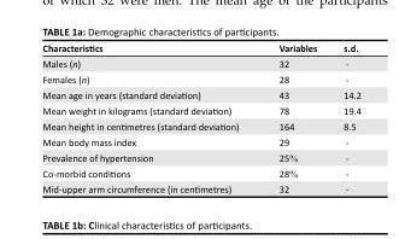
<table><thead><tr><td>Characteristics</td><td>Variables</td><td>s.d.</td></tr></thead><tbody><tr><td>Males (n)</td><td>32</td><td>-</td></tr><tr><td>Females (n)</td><td>28</td><td>-</td></tr><tr><td>Mean age in years (standard deviation)</td><td>43</td><td>14.2</td></tr><tr><td>Mean weight in kilograms (standard deviation)</td><td>78</td><td>19.4</td></tr><tr><td>Mean height in centimetres (standard deviation)</td><td>164</td><td>8.5</td></tr><tr><td>Mean body mass index</td><td>29</td><td>-</td></tr><tr><td>Prevalence of hypertension</td><td>25%</td><td>-</td></tr><tr><td>Co-morbid conditions</td><td>28%</td><td>-</td></tr><tr><td>Mid-upper arm circumference (in centimetres)</td><td>32</td><td>-</td></tr></tbody></table>